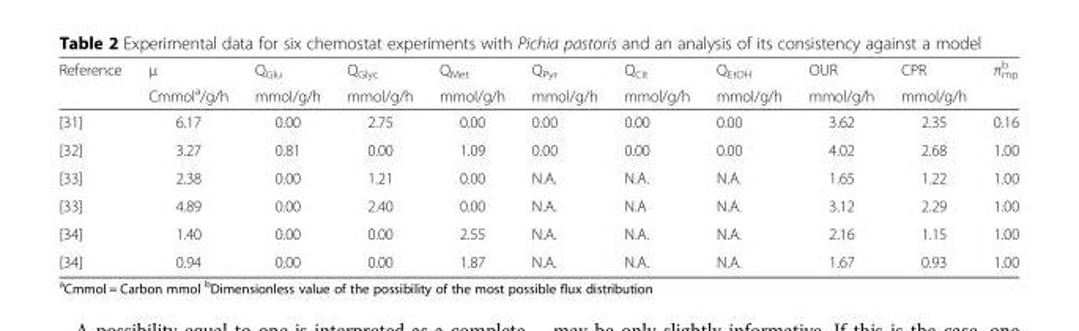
<table><thead><tr><td rowspan="2">Reference</td><td rowspan="2">μ Cmmol<sup>a</sup>/g/h</td><td rowspan="2">Q<sub>Glu</sub> mmol/g/h</td><td rowspan="2">Q<sub>Glyc</sub> mmol/g/h</td><td rowspan="2">Q<sub>Met</sub> mmol/g/h</td><td rowspan="2">Q<sub>Pyr</sub> mmol/g/h</td><td rowspan="2">Q<sub>Cit</sub> mmol/g/h</td><td rowspan="2">Q<sub>EtOH</sub> mmol/g/h</td><td rowspan="2">OUR mmol/g/h</td><td rowspan="2">CPR mmol/g/h</td><td rowspan="2">π<sub>mp</sub> <sup>b</sup></td></tr><tr></tr></thead><tbody><tr><td>[31]</td><td>6.17</td><td>0.00</td><td>2.75</td><td>0.00</td><td>0.00</td><td>0.00</td><td>0.00</td><td>3.62</td><td>2.35</td><td>0.16</td></tr><tr><td>[32]</td><td>3.27</td><td>0.81</td><td>0.00</td><td>1.09</td><td>0.00</td><td>0.00</td><td>0.00</td><td>4.02</td><td>2.68</td><td>1.00</td></tr><tr><td>[33]</td><td>2.38</td><td>0.00</td><td>1.21</td><td>0.00</td><td>N.A.</td><td>N.A.</td><td>N.A.</td><td>1.65</td><td>1.22</td><td>1.00</td></tr><tr><td>[33]</td><td>4.89</td><td>0.00</td><td>2.40</td><td>0.00</td><td>N.A.</td><td>N.A</td><td>N.A.</td><td>3.12</td><td>2.29</td><td>1.00</td></tr><tr><td>[34]</td><td>1.40</td><td>0.00</td><td>0.00</td><td>2.55</td><td>N.A.</td><td>N.A.</td><td>N.A.</td><td>2.16</td><td>1.15</td><td>1.00</td></tr><tr><td>[34]</td><td>0.94</td><td>0.00</td><td>0.00</td><td>1.87</td><td>N.A.</td><td>N.A.</td><td>N.A.</td><td>1.67</td><td>0.93</td><td>1.00</td></tr></tbody></table>